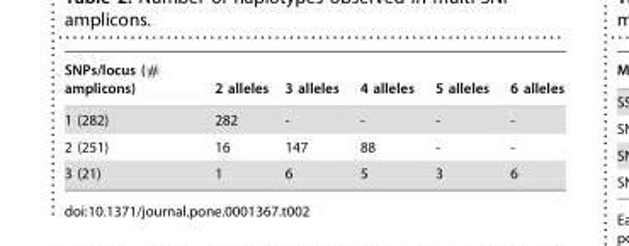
<table><thead><tr><td>SNPs/locus (# amplicons)</td><td>2 alleles</td><td>3 alleles</td><td>4 alleles</td><td>5 alleles</td><td>6 alleles</td></tr></thead><tbody><tr><td>1 (282)</td><td>282</td><td>-</td><td>-</td><td>-</td><td>-</td></tr><tr><td>2 (251)</td><td>16</td><td>147</td><td>88</td><td>-</td><td>-</td></tr><tr><td>3 (21)</td><td>1</td><td>6</td><td>5</td><td>3</td><td>6</td></tr></tbody></table>